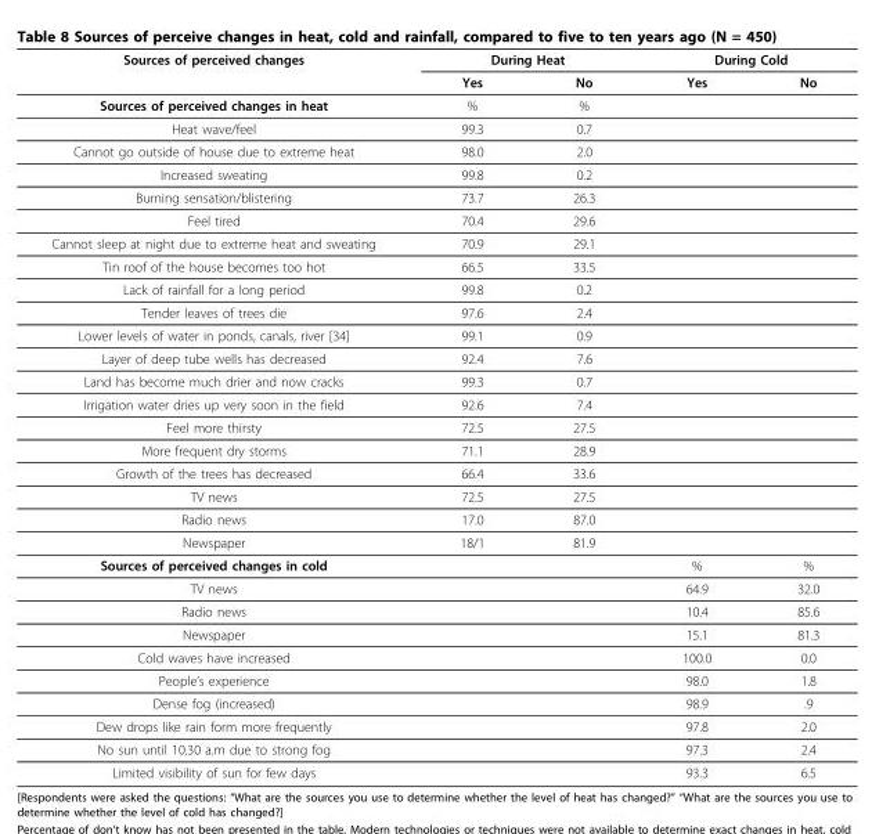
<table><thead><tr><td rowspan="2">Sources of perceived changes</td><td colspan="2">During Heat</td><td colspan="2">During Cold</td></tr><tr><td>Yes</td><td>No</td><td>Yes</td><td>No</td></tr></thead><tbody><tr><td>Sources of perceived changes in heat</td><td>%</td><td>%</td><td></td><td></td></tr><tr><td>Heat wave/feel</td><td>99.3</td><td>0.7</td><td></td><td></td></tr><tr><td>Cannot go outside of house due to extreme heat</td><td>98.0</td><td>2.0</td><td></td><td></td></tr><tr><td>Increased sweating</td><td>99.8</td><td>0.2</td><td></td><td></td></tr><tr><td>Burning sensation/blistering</td><td>73.7</td><td>26.3</td><td></td><td></td></tr><tr><td>Feel tired</td><td>70.4</td><td>29.6</td><td></td><td></td></tr><tr><td>Cannot sleep at night due to extreme heat and sweating</td><td>70.9</td><td>29.1</td><td></td><td></td></tr><tr><td>Tin roof of the house becomes too hot</td><td>66.5</td><td>33.5</td><td></td><td></td></tr><tr><td>Lack of rainfall for a long period</td><td>99.8</td><td>0.2</td><td></td><td></td></tr><tr><td>Tender leaves of trees die</td><td>97.6</td><td>2.4</td><td></td><td></td></tr><tr><td>Lower levels of water in ponds, canals, river [34]</td><td>99.1</td><td>0.9</td><td></td><td></td></tr><tr><td>Layer of deep tube wells has decreased</td><td>92.4</td><td>7.6</td><td></td><td></td></tr><tr><td>Land has become much drier and now cracks</td><td>99.3</td><td>0.7</td><td></td><td></td></tr><tr><td>Irrigation water dries up very soon in the field</td><td>92.6</td><td>7.4</td><td></td><td></td></tr><tr><td>Feel more thirsty</td><td>72.5</td><td>27.5</td><td></td><td></td></tr><tr><td>More frequent dry storms</td><td>71.1</td><td>28.9</td><td></td><td></td></tr><tr><td>Growth of the trees has decreased</td><td>66.4</td><td>33.6</td><td></td><td></td></tr><tr><td>TV news</td><td>72.5</td><td>27.5</td><td></td><td></td></tr><tr><td>Radio news</td><td>17.0</td><td>87.0</td><td></td><td></td></tr><tr><td>Newspaper</td><td>18/1</td><td>81.9</td><td></td><td></td></tr><tr><td>Sources of perceived changes in cold</td><td></td><td></td><td>%</td><td>%</td></tr><tr><td>TV news</td><td></td><td></td><td>64.9</td><td>32.0</td></tr><tr><td>Radio news</td><td></td><td></td><td>10.4</td><td>85.6</td></tr><tr><td>Newspaper</td><td></td><td></td><td>15.1</td><td>81.3</td></tr><tr><td>Cold waves have increased</td><td></td><td></td><td>100.0</td><td>0.0</td></tr><tr><td>People’s experience</td><td></td><td></td><td>98.0</td><td>1.8</td></tr><tr><td>Dense fog (increased)</td><td></td><td></td><td>98.9</td><td>.9</td></tr><tr><td>Dew drops like rain form more frequently</td><td></td><td></td><td>97.8</td><td>2.0</td></tr><tr><td>No sun until 10.30 a.m due to strong fog</td><td></td><td></td><td>97.3</td><td>2.4</td></tr><tr><td>Limited visibility of sun for few days</td><td></td><td></td><td>93.3</td><td>6.5</td></tr></tbody></table>